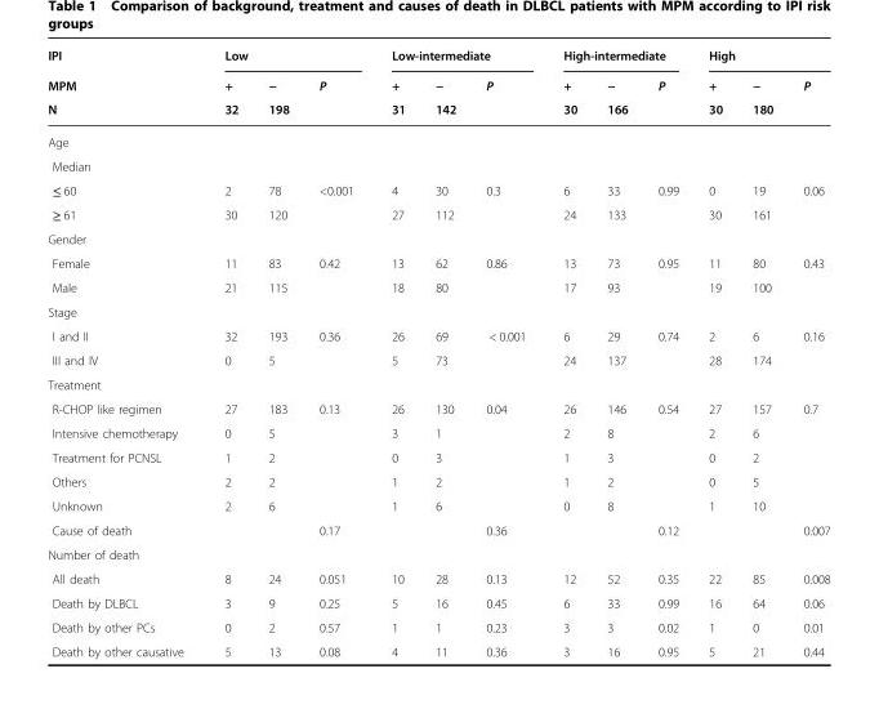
<table><thead><tr><td rowspan="3">IPI MPM N</td><td colspan="3">Low</td><td colspan="3">Low-intermediate</td><td colspan="3">High-intermediate</td><td colspan="3">High</td></tr><tr><td rowspan="2">+ 32</td><td rowspan="2">− 198</td><td rowspan="2">P</td><td rowspan="2">+ 31</td><td rowspan="2">− 142</td><td rowspan="2">P</td><td rowspan="2">+ 30</td><td rowspan="2">− 166</td><td rowspan="2">P</td><td rowspan="2">+ 30</td><td rowspan="2">− 180</td><td rowspan="2">P</td></tr><tr></tr></thead><tbody><tr><td colspan="13">Age</td></tr><tr><td colspan="13">Median</td></tr><tr><td>≤ 60</td><td>2</td><td>78</td><td>&lt;0.001</td><td>4</td><td>30</td><td>0.3</td><td>6</td><td>33</td><td>0.99</td><td>0</td><td>19</td><td>0.06</td></tr><tr><td>≥ 61</td><td>30</td><td>120</td><td></td><td>27</td><td>112</td><td></td><td>24</td><td>133</td><td></td><td>30</td><td>161</td><td></td></tr><tr><td colspan="13">Gender</td></tr><tr><td>Female</td><td>11</td><td>83</td><td>0.42</td><td>13</td><td>62</td><td>0.86</td><td>13</td><td>73</td><td>0.95</td><td>11</td><td>80</td><td>0.43</td></tr><tr><td>Male</td><td>21</td><td>115</td><td></td><td>18</td><td>80</td><td></td><td>17</td><td>93</td><td></td><td>19</td><td>100</td><td></td></tr><tr><td colspan="13">Stage</td></tr><tr><td>I and II</td><td>32</td><td>193</td><td>0.36</td><td>26</td><td>69</td><td>&lt; 0.001</td><td>6</td><td>29</td><td>0.74</td><td>2</td><td>6</td><td>0.16</td></tr><tr><td>III and IV</td><td>0</td><td>5</td><td></td><td>5</td><td>73</td><td></td><td>24</td><td>137</td><td></td><td>28</td><td>174</td><td></td></tr><tr><td colspan="13">Treatment</td></tr><tr><td>R-CHOP like regimen</td><td>27</td><td>183</td><td>0.13</td><td>26</td><td>130</td><td>0.04</td><td>26</td><td>146</td><td>0.54</td><td>27</td><td>157</td><td>0.7</td></tr><tr><td>Intensive chemotherapy</td><td>0</td><td>5</td><td></td><td>3</td><td>1</td><td></td><td>2</td><td>8</td><td></td><td>2</td><td>6</td><td></td></tr><tr><td>Treatment for PCNSL</td><td>1</td><td>2</td><td></td><td>0</td><td>3</td><td></td><td>1</td><td>3</td><td></td><td>0</td><td>2</td><td></td></tr><tr><td>Others</td><td>2</td><td>2</td><td></td><td>1</td><td>2</td><td></td><td>1</td><td>2</td><td></td><td>0</td><td>5</td><td></td></tr><tr><td>Unknown</td><td>2</td><td>6</td><td></td><td>1</td><td>6</td><td></td><td>0</td><td>8</td><td></td><td>1</td><td>10</td><td></td></tr><tr><td>Cause of death</td><td></td><td></td><td>0.17</td><td></td><td></td><td>0.36</td><td></td><td></td><td>0.12</td><td></td><td></td><td>0.007</td></tr><tr><td colspan="13">Number of death</td></tr><tr><td>All death</td><td>8</td><td>24</td><td>0.051</td><td>10</td><td>28</td><td>0.13</td><td>12</td><td>52</td><td>0.35</td><td>22</td><td>85</td><td>0.008</td></tr><tr><td>Death by DLBCL</td><td>3</td><td>9</td><td>0.25</td><td>5</td><td>16</td><td>0.45</td><td>6</td><td>33</td><td>0.99</td><td>16</td><td>64</td><td>0.06</td></tr><tr><td>Death by other PCs</td><td>0</td><td>2</td><td>0.57</td><td>1</td><td>1</td><td>0.23</td><td>3</td><td>3</td><td>0.02</td><td>1</td><td>0</td><td>0.01</td></tr><tr><td>Death by other causative</td><td>5</td><td>13</td><td>0.08</td><td>4</td><td>11</td><td>0.36</td><td>3</td><td>16</td><td>0.95</td><td>5</td><td>21</td><td>0.44</td></tr></tbody></table>